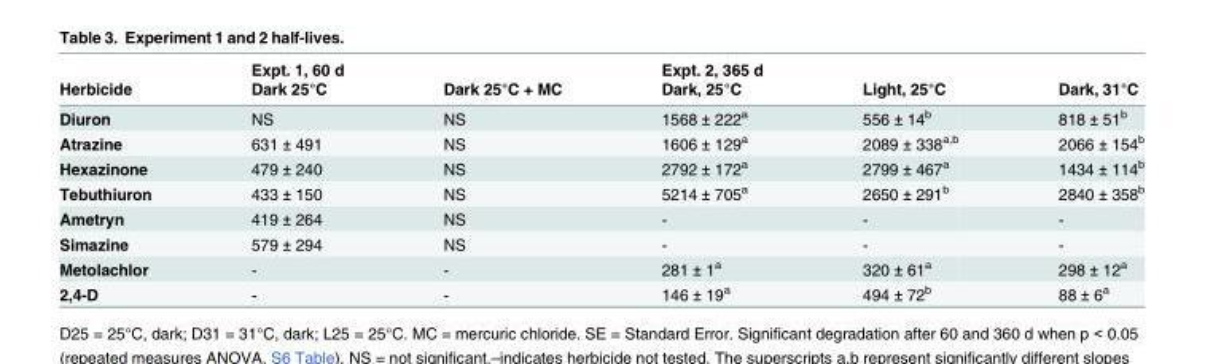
<table><thead><tr><td rowspan="2">Herbicide</td><td rowspan="2">Expt. 1, 60 d Dark 25°C</td><td rowspan="2">Dark 25°C + MC</td><td rowspan="2">Expt. 2, 365 d Dark, 25°C</td><td rowspan="2">Light, 25°C</td><td rowspan="2">Dark, 31°C</td></tr><tr></tr></thead><tbody><tr><td>Diuron</td><td>NS</td><td>NS</td><td>1568 ± 222<sup>a</sup></td><td>556 ± 14<sup>b</sup></td><td>818 ± 51<sup>b</sup></td></tr><tr><td>Atrazine</td><td>631 ± 491</td><td>NS</td><td>1606 ± 129<sup>a</sup></td><td>2089 ± 338<sup>a,b</sup></td><td>2066 ± 154<sup>b</sup></td></tr><tr><td>Hexazinone</td><td>479 ± 240</td><td>NS</td><td>2792 ± 172<sup>a</sup></td><td>2799 ± 467<sup>a</sup></td><td>1434 ± 114<sup>b</sup></td></tr><tr><td>Tebuthiuron</td><td>433 ± 150</td><td>NS</td><td>5214 ± 705<sup>a</sup></td><td>2650 ± 291<sup>b</sup></td><td>2840 ± 358<sup>b</sup></td></tr><tr><td>Ametryn</td><td>419 ± 264</td><td>NS</td><td>-</td><td>-</td><td>-</td></tr><tr><td>Simazine</td><td>579 ± 294</td><td>NS</td><td>-</td><td>-</td><td>-</td></tr><tr><td>Metolachlor</td><td>-</td><td>-</td><td>281 ± 1<sup>a</sup></td><td>320 ± 61<sup>a</sup></td><td>298 ± 12<sup>a</sup></td></tr><tr><td>2,4-D</td><td>-</td><td>-</td><td>146 ± 19<sup>a</sup></td><td>494 ± 72<sup>b</sup></td><td>88 ± 6<sup>a</sup></td></tr></tbody></table>